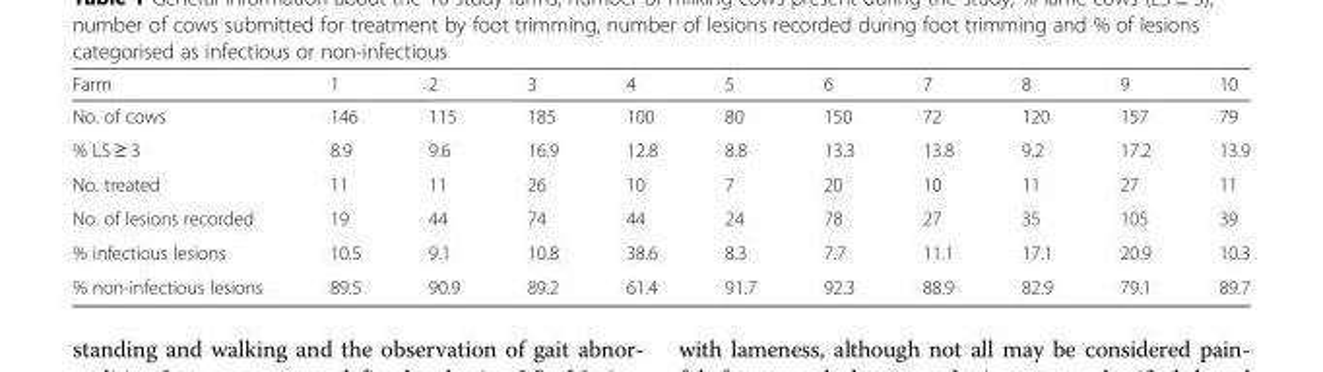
<table><thead><tr><td>Farm</td><td>1</td><td>2</td><td>3</td><td>4</td><td>5</td><td>6</td><td>7</td><td>8</td><td>9</td><td>10</td></tr></thead><tbody><tr><td>No. of cows</td><td>146</td><td>115</td><td>185</td><td>100</td><td>80</td><td>150</td><td>72</td><td>120</td><td>157</td><td>79</td></tr><tr><td>% LS ≥ 3</td><td>8.9</td><td>9.6</td><td>16.9</td><td>12.8</td><td>8.8</td><td>13.3</td><td>13.8</td><td>9.2</td><td>17.2</td><td>13.9</td></tr><tr><td>No. treated</td><td>11</td><td>11</td><td>26</td><td>10</td><td>7</td><td>20</td><td>10</td><td>11</td><td>27</td><td>11</td></tr><tr><td>No. of lesions recorded</td><td>19</td><td>44</td><td>74</td><td>44</td><td>24</td><td>78</td><td>27</td><td>35</td><td>105</td><td>39</td></tr><tr><td>% infectious lesions</td><td>10.5</td><td>9.1</td><td>10.8</td><td>38.6</td><td>8.3</td><td>7.7</td><td>11.1</td><td>17.1</td><td>20.9</td><td>10.3</td></tr><tr><td>% non-infectious lesions</td><td>89.5</td><td>90.9</td><td>89.2</td><td>61.4</td><td>91.7</td><td>92.3</td><td>88.9</td><td>82.9</td><td>79.1</td><td>89.7</td></tr></tbody></table>